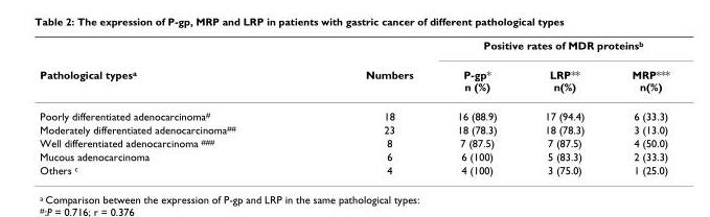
<table><thead><tr><td rowspan="2">Pathological types<sup>a</sup></td><td rowspan="2">Numbers</td><td colspan="3">Positive rates of MDR proteins<sup>b</sup></td></tr><tr><td>P-gp* n (%)</td><td>LRP** n(%)</td><td>MRP*** n(%)</td></tr></thead><tbody><tr><td>Poorly differentiated adenocarcinoma<sup>#</sup></td><td>18</td><td>16 (88.9)</td><td>17 (94.4)</td><td>6 (33.3)</td></tr><tr><td>Moderately differentiated adenocarcinoma<sup>##</sup></td><td>23</td><td>18 (78.3)</td><td>18 (78.3)</td><td>3 (13.0)</td></tr><tr><td>Well differentiated adenocarcinoma <sup>###</sup></td><td>8</td><td>7 (87.5)</td><td>7 (87.5)</td><td>4 (50.0)</td></tr><tr><td>Mucous adenocarcinoma</td><td>6</td><td>6 (100)</td><td>5 (83.3)</td><td>2 (33.3)</td></tr><tr><td>Others <sup>c</sup></td><td>4</td><td>4 (100)</td><td>3 (75.0)</td><td>1 (25.0)</td></tr></tbody></table>